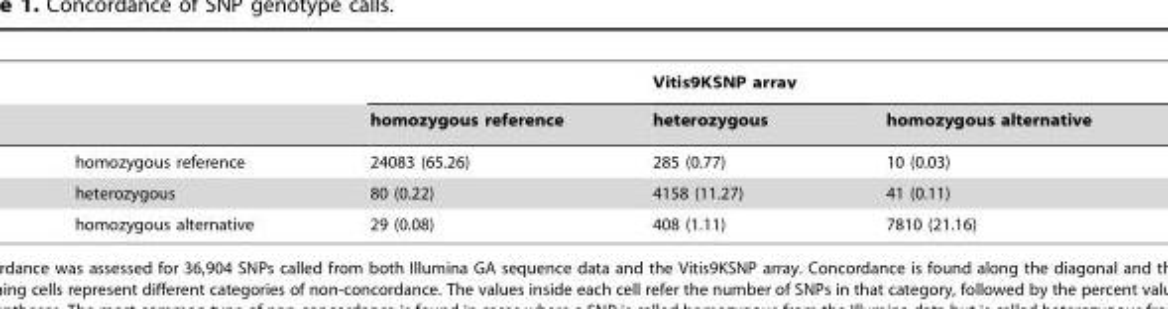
<table><thead><tr><td rowspan="2"></td><td rowspan="2">homozygous reference</td><td rowspan="2">Vitis9KSNP array heterozygous</td><td rowspan="2">homozygous alternative</td></tr><tr></tr></thead><tbody><tr><td>homozygous reference</td><td>24083 (65.26)</td><td>285 (0.77)</td><td>10 (0.03)</td></tr><tr><td>heterozygous</td><td>80 (0.22)</td><td>4158 (11.27)</td><td>41 (0.11)</td></tr><tr><td>homozygous alternative</td><td>29 (0.08)</td><td>408 (1.11)</td><td>7810 (21.16)</td></tr></tbody></table>